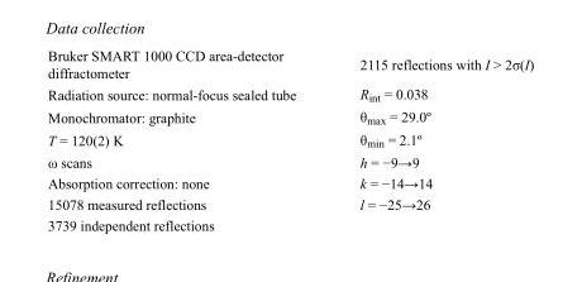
<table><tbody><tr><td>Bruker SMART 1000 CCD area-detector diffractometer</td><td>2115 reflections with I &gt; 2σ(I)</td></tr><tr><td>Radiation source: normal-focus sealed tube</td><td>R<sub>int</sub> = 0.038</td></tr><tr><td>Monochromator: graphite</td><td>θ<sub>max</sub> = 29.0º</td></tr><tr><td>T = 120(2) K</td><td>θ<sub>min</sub> = 2.1º</td></tr><tr><td>ω scans</td><td>h = −9→9</td></tr><tr><td>Absorption correction: none</td><td>k = −14→14</td></tr><tr><td>15078 measured reflections</td><td>l = −25→26</td></tr><tr><td>3739 independent reflections</td><td></td></tr></tbody></table>